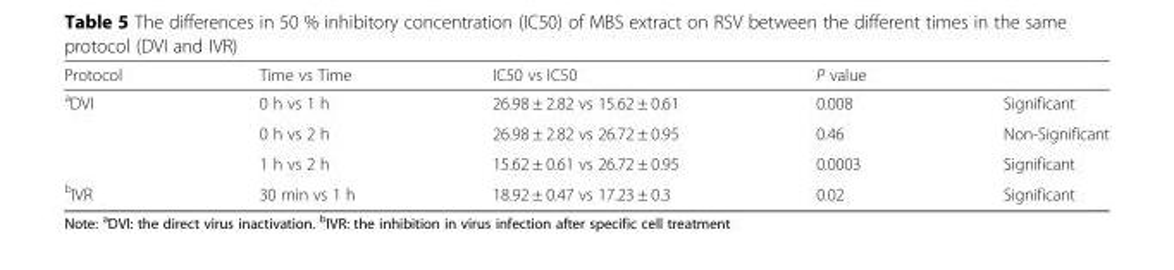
<table><thead><tr><td>Protocol</td><td>Time vs Time</td><td>IC50 vs IC50</td><td>P value</td><td></td></tr></thead><tbody><tr><td rowspan="3"><sup>a</sup>DVI</td><td>0 h vs 1 h</td><td>26.98 ± 2.82 vs 15.62 ± 0.61</td><td>0.008</td><td>Significant</td></tr><tr><td>0 h vs 2 h</td><td>26.98 ± 2.82 vs 26.72 ± 0.95</td><td>0.46</td><td>Non-Significant</td></tr><tr><td>1 h vs 2 h</td><td>15.62 ± 0.61 vs 26.72 ± 0.95</td><td>0.0003</td><td>Significant</td></tr><tr><td><sup>b</sup>IVR</td><td>30 min vs 1 h</td><td>18.92 ± 0.47 vs 17.23 ± 0.3</td><td>0.02</td><td>Significant</td></tr></tbody></table>